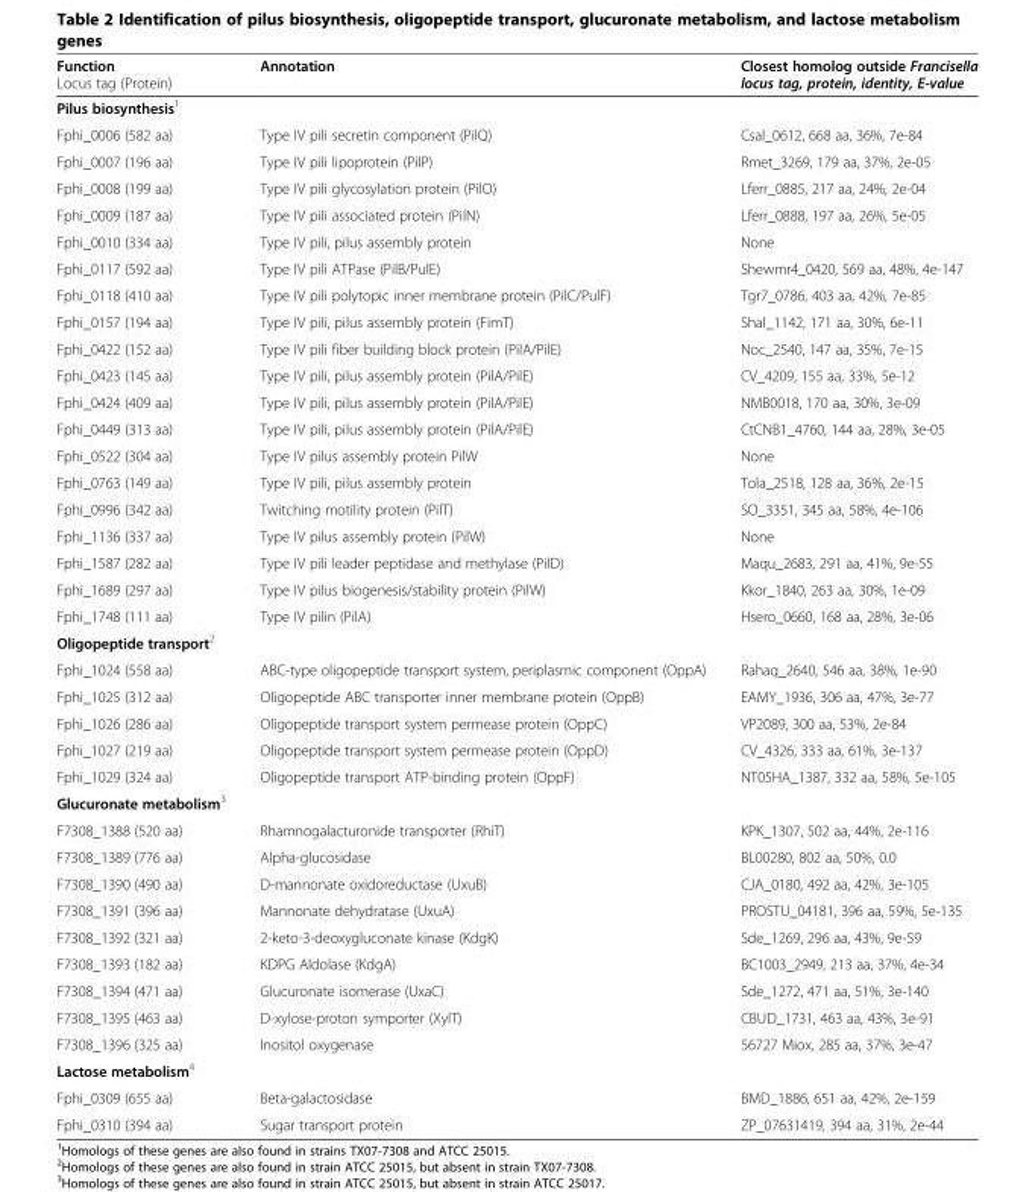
<table><thead><tr><td>Function Locus tag (Protein)</td><td>Annotation</td><td>Closest homolog outside Francisella locus tag, protein, identity, E-value</td></tr></thead><tbody><tr><td colspan="3">Pilus biosynthesis<sup>1</sup></td></tr><tr><td>Fphi_0006 (582 aa)</td><td>Type IV pili secretin component (PilQ)</td><td>Csal_0612, 668 aa, 36%, 7e-84</td></tr><tr><td>Fphi_0007 (196 aa)</td><td>Type IV pili lipoprotein (PilP)</td><td>Rmet_3269, 179 aa, 37%, 2e-05</td></tr><tr><td>Fphi_0008 (199 aa)</td><td>Type IV pili glycosylation protein (PilO)</td><td>Lferr_0885, 217 aa, 24%, 2e-04</td></tr><tr><td>Fphi_0009 (187 aa)</td><td>Type IV pili associated protein (PilN)</td><td>Lferr_0888, 197 aa, 26%, 5e-05</td></tr><tr><td>Fphi_0010 (334 aa)</td><td>Type IV pili, pilus assembly protein</td><td>None</td></tr><tr><td>Fphi_0117 (592 aa)</td><td>Type IV pili ATPase (PilB/PulE)</td><td>Shewmr4_0420, 569 aa, 48%, 4e-147</td></tr><tr><td>Fphi_0118 (410 aa)</td><td>Type IV pili polytopic inner membrane protein (PilC/PulF)</td><td>Tgr7_0786, 403 aa, 42%, 7e-85</td></tr><tr><td>Fphi_0157 (194 aa)</td><td>Type IV pili, pilus assembly protein (FimT)</td><td>Shal_1142, 171 aa, 30%, 6e-11</td></tr><tr><td>Fphi_0422 (152 aa)</td><td>Type IV pili fiber building block protein (PilA/PilE)</td><td>Noc_2540, 147 aa, 35%, 7e-15</td></tr><tr><td>Fphi_0423 (145 aa)</td><td>Type IV pili, pilus assembly protein (PilA/PilE)</td><td>CV_4209, 155 aa, 33%, 5e-12</td></tr><tr><td>Fphi_0424 (409 aa)</td><td>Type IV pili, pilus assembly protein (PilA/PilE)</td><td>NMB0018, 170 aa, 30%, 3e-09</td></tr><tr><td>Fphi_0449 (313 aa)</td><td>Type IV pili, pilus assembly protein (PilA/PilE)</td><td>CtCNB1_4760, 144 aa, 28%, 3e-05</td></tr><tr><td>Fphi_0522 (304 aa)</td><td>Type IV pilus assembly protein PilW</td><td>None</td></tr><tr><td>Fphi_0763 (149 aa)</td><td>Type IV pili, pilus assembly protein</td><td>Tola_2518, 128 aa, 36%, 2e-15</td></tr><tr><td>Fphi_0996 (342 aa)</td><td>Twitching motility protein (PilT)</td><td>SO_3351, 345 aa, 58%, 4e-106</td></tr><tr><td>Fphi_1136 (337 aa)</td><td>Type IV pilus assembly protein (PilW)</td><td>None</td></tr><tr><td>Fphi_1587 (282 aa)</td><td>Type IV pili leader peptidase and methylase (PilD)</td><td>Maqu_2683, 291 aa, 41%, 9e-55</td></tr><tr><td>Fphi_1689 (297 aa)</td><td>Type IV pilus biogenesis/stability protein (PilW)</td><td>Kkor_1840, 263 aa, 30%, 1e-09</td></tr><tr><td>Fphi_1748 (111 aa)</td><td>Type IV pilin (PilA)</td><td>Hsero_0660, 168 aa, 28%, 3e-06</td></tr><tr><td colspan="3">Oligopeptide transport<sup>2</sup></td></tr><tr><td>Fphi_1024 (558 aa)</td><td>ABC-type oligopeptide transport system, periplasmic component (OppA)</td><td>Rahaq_2640, 546 aa, 38%, 1e-90</td></tr><tr><td>Fphi_1025 (312 aa)</td><td>Oligopeptide ABC transporter inner membrane protein (OppB)</td><td>EAMY_1936, 306 aa, 47%, 3e-77</td></tr><tr><td>Fphi_1026 (286 aa)</td><td>Oligopeptide transport system permease protein (OppC)</td><td>VP2089, 300 aa, 53%, 2e-84</td></tr><tr><td>Fphi_1027 (219 aa)</td><td>Oligopeptide transport system permease protein (OppD)</td><td>CV_4326, 333 aa, 61%, 3e-137</td></tr><tr><td>Fphi_1029 (324 aa)</td><td>Oligopeptide transport ATP-binding protein (OppF)</td><td>NT05HA_1387, 332 aa, 58%, 5e-105</td></tr><tr><td colspan="3">Glucuronate metabolism<sup>3</sup></td></tr><tr><td>F7308_1388 (520 aa)</td><td>Rhamnogalacturonide transporter (RhiT)</td><td>KPK_1307, 502 aa, 44%, 2e-116</td></tr><tr><td>F7308_1389 (776 aa)</td><td>Alpha-glucosidase</td><td>BL00280, 802 aa, 50%, 0.0</td></tr><tr><td>F7308_1390 (490 aa)</td><td>D-mannonate oxidoreductase (UxuB)</td><td>CJA_0180, 492 aa, 42%, 3e-105</td></tr><tr><td>F7308_1391 (396 aa)</td><td>Mannonate dehydratase (UxuA)</td><td>PROSTU_04181, 396 aa, 59%, 5e-135</td></tr><tr><td>F7308_1392 (321 aa)</td><td>2-keto-3-deoxygluconate kinase (KdgK)</td><td>Sde_1269, 296 aa, 43%, 9e-59</td></tr><tr><td>F7308_1393 (182 aa)</td><td>KDPG Aldolase (KdgA)</td><td>BC1003_2949, 213 aa, 37%, 4e-34</td></tr><tr><td>F7308_1394 (471 aa)</td><td>Glucuronate isomerase (UxaC)</td><td>Sde_1272, 471 aa, 51%, 3e-140</td></tr><tr><td>F7308_1395 (463 aa)</td><td>D-xylose-proton symporter (XylT)</td><td>CBUD_1731, 463 aa, 43%, 3e-91</td></tr><tr><td>F7308_1396 (325 aa)</td><td>Inositol oxygenase</td><td>56727 Miox, 285 aa, 37%, 3e-47</td></tr><tr><td colspan="3">Lactose metabolism<sup>4</sup></td></tr><tr><td>Fphi_0309 (655 aa)</td><td>Beta-galactosidase</td><td>BMD_1886, 651 aa, 42%, 2e-159</td></tr><tr><td>Fphi_0310 (394 aa)</td><td>Sugar transport protein</td><td>ZP_07631419, 394 aa, 31%, 2e-44</td></tr></tbody></table>